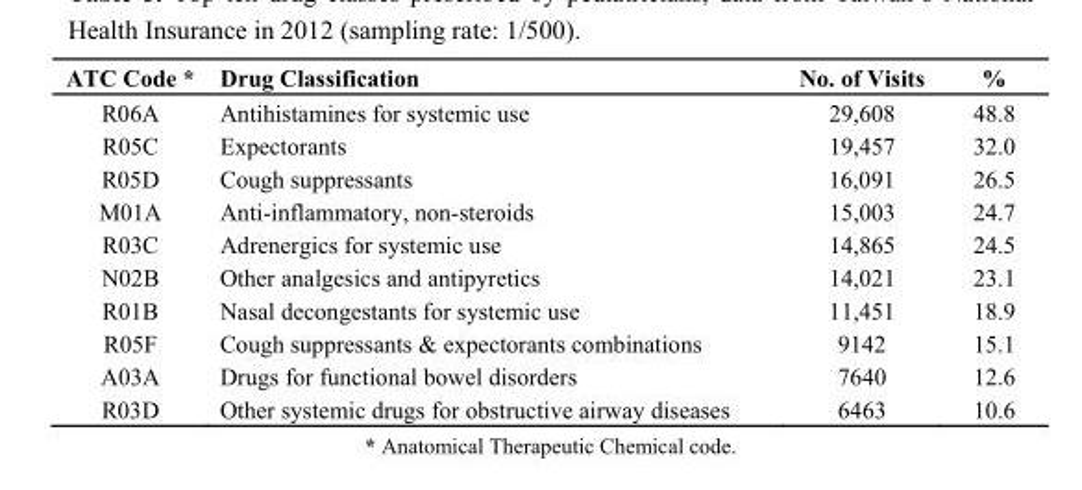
<table><thead><tr><td>ATC Code *</td><td>Drug Classification</td><td>No. of Visits</td><td>%</td></tr></thead><tbody><tr><td>R06A</td><td>Antihistamines for systemic use</td><td>29,608</td><td>48.8</td></tr><tr><td>R05C</td><td>Expectorants</td><td>19,457</td><td>32.0</td></tr><tr><td>R05D</td><td>Cough suppressants</td><td>16,091</td><td>26.5</td></tr><tr><td>M01A</td><td>Anti-inflammatory, non-steroids</td><td>15,003</td><td>24.7</td></tr><tr><td>R03C</td><td>Adrenergics for systemic use</td><td>14,865</td><td>24.5</td></tr><tr><td>N02B</td><td>Other analgesics and antipyretics</td><td>14,021</td><td>23.1</td></tr><tr><td>R01B</td><td>Nasal decongestants for systemic use</td><td>11,451</td><td>18.9</td></tr><tr><td>R05F</td><td>Cough suppressants &amp; expectorants combinations</td><td>9142</td><td>15.1</td></tr><tr><td>A03A</td><td>Drugs for functional bowel disorders</td><td>7640</td><td>12.6</td></tr><tr><td>R03D</td><td>Other systemic drugs for obstructive airway diseases</td><td>6463</td><td>10.6</td></tr></tbody></table>